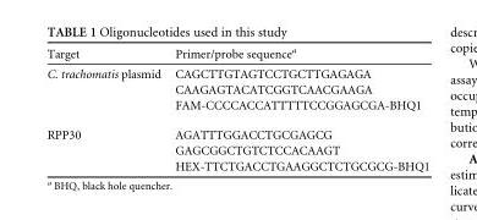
<table><thead><tr><td>Target</td><td>Primer/probe sequence<sup>a</sup></td></tr></thead><tbody><tr><td rowspan="3">C. trachomatis plasmid</td><td>CAGCTTGTAGTCCTGCTTGAGAGA</td></tr><tr><td>CAAGAGTACATCGGTCAACGAAGA</td></tr><tr><td>FAM-CCCCACCATTTTTCCGGAGCGA-BHQ1</td></tr><tr><td rowspan="3">RPP30</td><td>AGATTTGGACCTGCGAGCG</td></tr><tr><td>GAGCGGCTGTCTCCACAAGT</td></tr><tr><td>HEX-TTCTGACCTGAAGGCTCTGCGCG-BHQ1</td></tr></tbody></table>